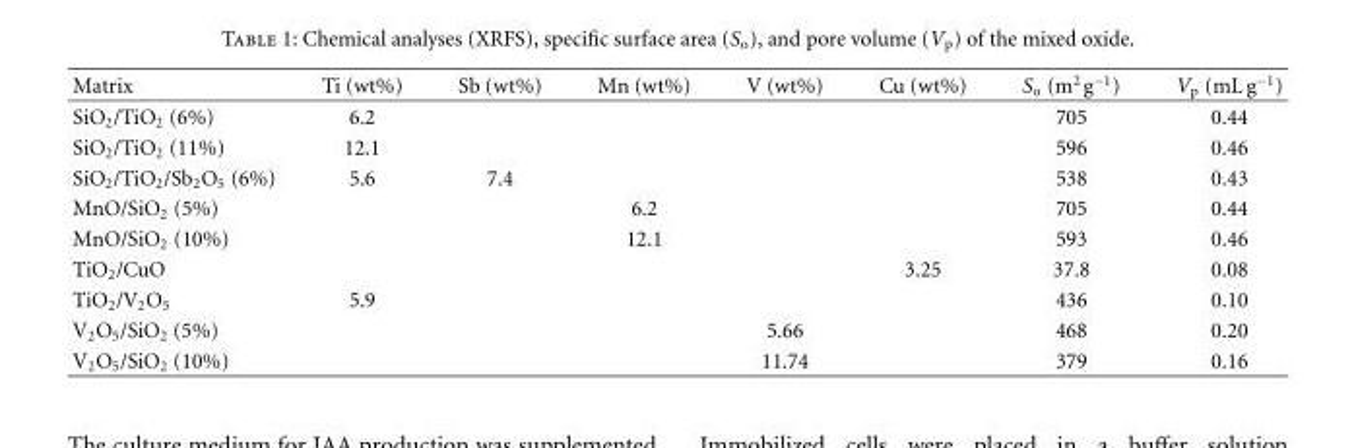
<table><thead><tr><td>Matrix</td><td>Ti (wt%)</td><td>Sb (wt%)</td><td>Mn (wt%)</td><td>V (wt%)</td><td>Cu (wt%)</td><td>S<sub>o</sub> (m<sup>2</sup> g<sup>−1</sup>)</td><td>V<sub>p</sub> (mL g<sup>−1</sup>)</td></tr></thead><tbody><tr><td>SiO<sub>2</sub>/TiO<sub>2</sub> (6%)</td><td>6.2</td><td></td><td></td><td></td><td></td><td>705</td><td>0.44</td></tr><tr><td>SiO<sub>2</sub>/TiO<sub>2</sub> (11%)</td><td>12.1</td><td></td><td></td><td></td><td></td><td>596</td><td>0.46</td></tr><tr><td>SiO<sub>2</sub>/TiO<sub>2</sub>/Sb<sub>2</sub>O<sub>5</sub> (6%)</td><td>5.6</td><td>7.4</td><td></td><td></td><td></td><td>538</td><td>0.43</td></tr><tr><td>MnO/SiO<sub>2</sub> (5%)</td><td></td><td></td><td>6.2</td><td></td><td></td><td>705</td><td>0.44</td></tr><tr><td>MnO/SiO<sub>2</sub> (10%)</td><td></td><td></td><td>12.1</td><td></td><td></td><td>593</td><td>0.46</td></tr><tr><td>TiO<sub>2</sub>/CuO</td><td></td><td></td><td></td><td></td><td>3.25</td><td>37.8</td><td>0.08</td></tr><tr><td>TiO<sub>2</sub>/V<sub>2</sub>O<sub>5</sub></td><td>5.9</td><td></td><td></td><td></td><td></td><td>436</td><td>0.10</td></tr><tr><td>V<sub>2</sub>O<sub>5</sub>/SiO<sub>2</sub> (5%)</td><td></td><td></td><td></td><td>5.66</td><td></td><td>468</td><td>0.20</td></tr><tr><td>V<sub>2</sub>O<sub>5</sub>/SiO<sub>2</sub> (10%)</td><td></td><td></td><td></td><td>11.74</td><td></td><td>379</td><td>0.16</td></tr></tbody></table>